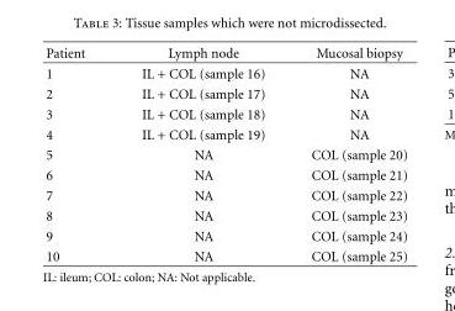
<table><thead><tr><td>Patient</td><td>Lymph node</td><td>Mucosal biopsy</td></tr></thead><tbody><tr><td>1</td><td>IL + COL (sample 16)</td><td>NA</td></tr><tr><td>2</td><td>IL + COL (sample 17)</td><td>NA</td></tr><tr><td>3</td><td>IL + COL (sample 18)</td><td>NA</td></tr><tr><td>4</td><td>IL + COL (sample 19)</td><td>NA</td></tr><tr><td>5</td><td>NA</td><td>COL (sample 20)</td></tr><tr><td>6</td><td>NA</td><td>COL (sample 21)</td></tr><tr><td>7</td><td>NA</td><td>COL (sample 22)</td></tr><tr><td>8</td><td>NA</td><td>COL (sample 23)</td></tr><tr><td>9</td><td>NA</td><td>COL (sample 24)</td></tr><tr><td>10</td><td>NA</td><td>COL (sample 25)</td></tr></tbody></table>